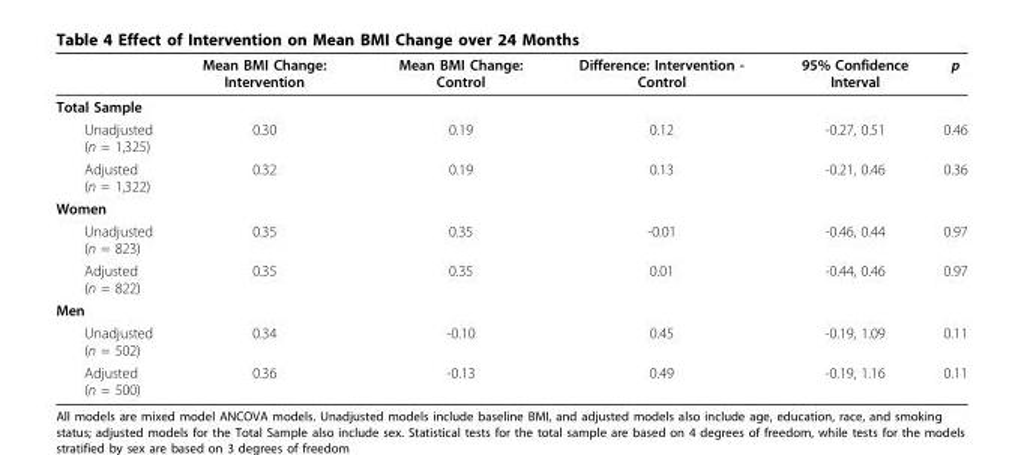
<table><thead><tr><td></td><td>Mean BMI Change: Intervention</td><td>Mean BMI Change: Control</td><td>Difference: Intervention - Control</td><td>95% Confidence Interval</td><td>p</td></tr></thead><tbody><tr><td colspan="6">Total Sample</td></tr><tr><td>Unadjusted (n = 1,325)</td><td>0.30</td><td>0.19</td><td>0.12</td><td>-0.27, 0.51</td><td>0.46</td></tr><tr><td>Adjusted (n = 1,322)</td><td>0.32</td><td>0.19</td><td>0.13</td><td>-0.21, 0.46</td><td>0.36</td></tr><tr><td colspan="6">Women</td></tr><tr><td>Unadjusted (n = 823)</td><td>0.35</td><td>0.35</td><td>-0.01</td><td>-0.46, 0.44</td><td>0.97</td></tr><tr><td>Adjusted (n = 822)</td><td>0.35</td><td>0.35</td><td>0.01</td><td>-0.44, 0.46</td><td>0.97</td></tr><tr><td colspan="6">Men</td></tr><tr><td>Unadjusted (n = 502)</td><td>0.34</td><td>-0.10</td><td>0.45</td><td>-0.19, 1.09</td><td>0.11</td></tr><tr><td>Adjusted (n = 500)</td><td>0.36</td><td>-0.13</td><td>0.49</td><td>-0.19, 1.16</td><td>0.11</td></tr></tbody></table>